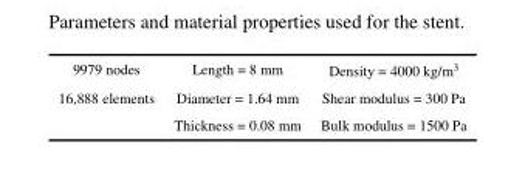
<table><tbody><tr><td>9979 nodes</td><td>Length = 8 mm</td><td>Density = 4000 kg/m<sup>3</sup></td></tr><tr><td rowspan="2">16,888 elements</td><td>Diameter = 1.64 mm</td><td>Shear modulus = 300 Pa</td></tr><tr><td>Thickness = 0.08 mm</td><td>Bulk modulus = 1500 Pa</td></tr></tbody></table>